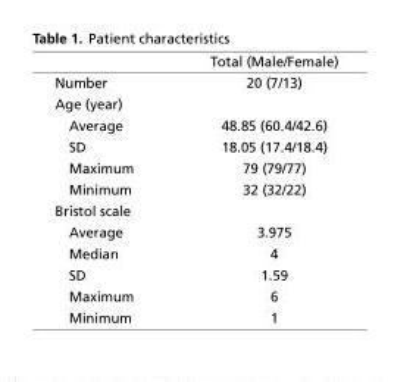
<table><thead><tr><td></td><td>Total (Male/Female)</td></tr></thead><tbody><tr><td>Number</td><td>20 (7/13)</td></tr><tr><td colspan="2">Age (year)</td></tr><tr><td>Average</td><td>48.85 (60.4/42.6)</td></tr><tr><td>SD</td><td>18.05 (17.4/18.4)</td></tr><tr><td>Maximum</td><td>79 (79/77)</td></tr><tr><td>Minimum</td><td>32 (32/22)</td></tr><tr><td colspan="2">Bristol scale</td></tr><tr><td>Average</td><td>3.975</td></tr><tr><td>Median</td><td>4</td></tr><tr><td>SD</td><td>1.59</td></tr><tr><td>Maximum</td><td>6</td></tr><tr><td>Minimum</td><td>1</td></tr></tbody></table>